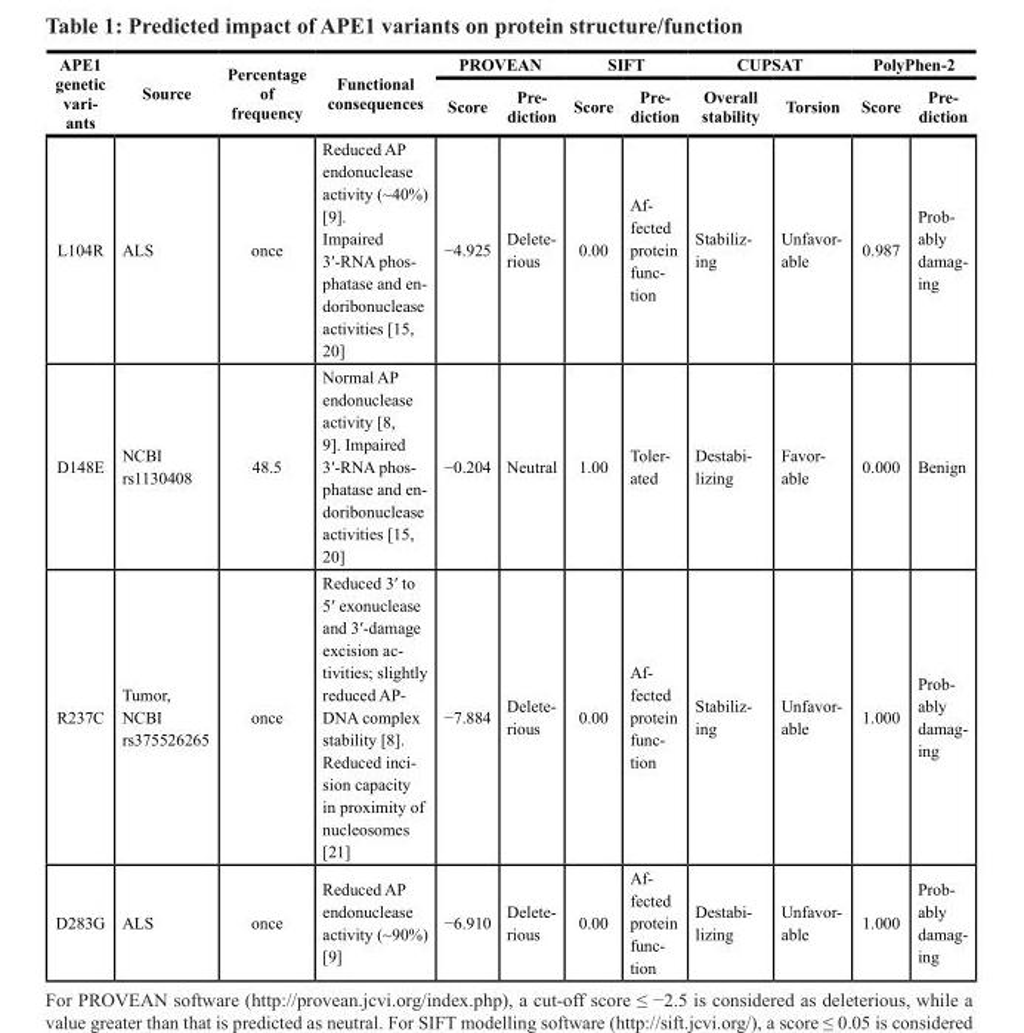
<table><thead><tr><td rowspan="2">APE1 genetic vari- ants</td><td rowspan="2">Source</td><td rowspan="2">Percentage of frequency</td><td rowspan="2">Functional consequences</td><td colspan="2">PROVEAN</td><td colspan="2">SIFT</td><td colspan="2">CUPSAT</td><td colspan="2">PolyPhen-2</td></tr><tr><td>Score</td><td>Pre- diction</td><td>Score</td><td>Pre- diction</td><td>Overall stability</td><td>Torsion</td><td>Score</td><td>Pre- diction</td></tr></thead><tbody><tr><td>L104R</td><td>ALS</td><td>once</td><td>Reduced AP endonuclease activity (~40%) [9]. Impaired 3′-RNA phos- phatase and en- doribonuclease activities [15, 20]</td><td>−4.925</td><td>Delete- rious</td><td>0.00</td><td>Af- fected protein func- tion</td><td>Stabiliz- ing</td><td>Unfavor- able</td><td>0.987</td><td>Prob- ably damag- ing</td></tr><tr><td>D148E</td><td>NCBI rs1130408</td><td>48.5</td><td>Normal AP endonuclease activity [8, 9]. Impaired 3′-RNA phos- phatase and en- doribonuclease activities [15, 20]</td><td>−0.204</td><td>Neutral</td><td>1.00</td><td>Toler- ated</td><td>Destabi- lizing</td><td>Favor- able</td><td>0.000</td><td>Benign</td></tr><tr><td>R237C</td><td>Tumor, NCBI rs375526265</td><td>once</td><td>Reduced 3′ to 5′ exonuclease and 3′-damage excision ac- tivities; slightly reduced AP- DNA complex stability [8]. Reduced inci- sion capacity in proximity of nucleosomes [21]</td><td>−7.884</td><td>Delete- rious</td><td>0.00</td><td>Af- fected protein func- tion</td><td>Stabiliz- ing</td><td>Unfavor- able</td><td>1.000</td><td>Prob- ably damag- ing</td></tr><tr><td>D283G</td><td>ALS</td><td>once</td><td>Reduced AP endonuclease activity (~90%) [9]</td><td>−6.910</td><td>Delete- rious</td><td>0.00</td><td>Af- fected protein func- tion</td><td>Destabi- lizing</td><td>Unfavor- able</td><td>1.000</td><td>Prob- ably damag- ing</td></tr></tbody></table>